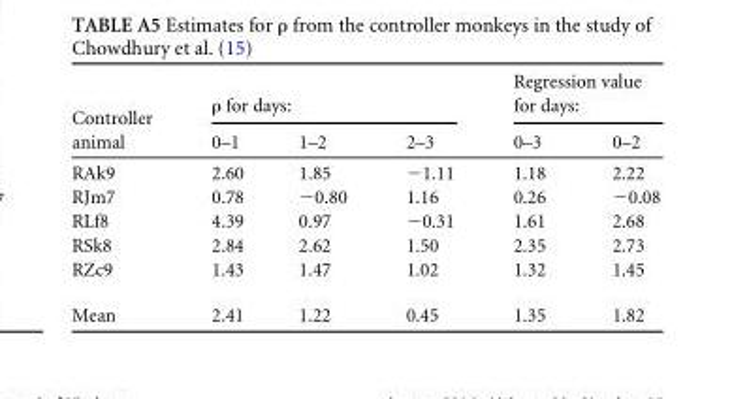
<table><thead><tr><td rowspan="2">Controller animal</td><td colspan="3">ρ for days:</td><td colspan="2">Regression value for days:</td></tr><tr><td>0–1</td><td>1–2</td><td>2–3</td><td>0–3</td><td>0–2</td></tr></thead><tbody><tr><td>RAk9</td><td>2.60</td><td>1.85</td><td>−1.11</td><td>1.18</td><td>2.22</td></tr><tr><td>RJm7</td><td>0.78</td><td>−0.80</td><td>1.16</td><td>0.26</td><td>−0.08</td></tr><tr><td>RLf8</td><td>4.39</td><td>0.97</td><td>−0.31</td><td>1.61</td><td>2.68</td></tr><tr><td>RSk8</td><td>2.84</td><td>2.62</td><td>1.50</td><td>2.35</td><td>2.73</td></tr><tr><td>RZc9</td><td>1.43</td><td>1.47</td><td>1.02</td><td>1.32</td><td>1.45</td></tr><tr><td>Mean</td><td>2.41</td><td>1.22</td><td>0.45</td><td>1.35</td><td>1.82</td></tr></tbody></table>